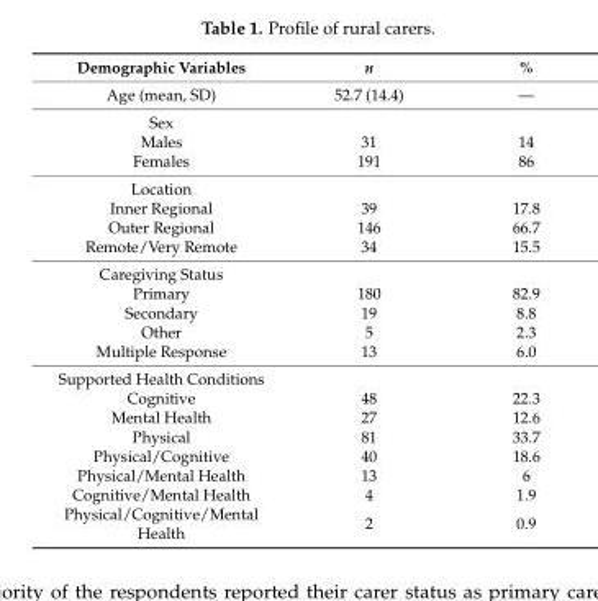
<table><thead><tr><td>Demographic Variables</td><td>n</td><td>%</td></tr></thead><tbody><tr><td>Age (mean, SD)</td><td>52.7 (14.4)</td><td>—</td></tr><tr><td colspan="3">Sex</td></tr><tr><td>Males</td><td>31</td><td>14</td></tr><tr><td>Females</td><td>191</td><td>86</td></tr><tr><td colspan="3">Location</td></tr><tr><td>Inner Regional</td><td>39</td><td>17.8</td></tr><tr><td>Outer Regional</td><td>146</td><td>66.7</td></tr><tr><td>Remote/Very Remote</td><td>34</td><td>15.5</td></tr><tr><td colspan="3">Caregiving Status</td></tr><tr><td>Primary</td><td>180</td><td>82.9</td></tr><tr><td>Secondary</td><td>19</td><td>8.8</td></tr><tr><td>Other</td><td>5</td><td>2.3</td></tr><tr><td>Multiple Response</td><td>13</td><td>6.0</td></tr><tr><td colspan="3">Supported Health Conditions</td></tr><tr><td>Cognitive</td><td>48</td><td>22.3</td></tr><tr><td>Mental Health</td><td>27</td><td>12.6</td></tr><tr><td>Physical</td><td>81</td><td>33.7</td></tr><tr><td>Physical/Cognitive</td><td>40</td><td>18.6</td></tr><tr><td>Physical/Mental Health</td><td>13</td><td>6</td></tr><tr><td>Cognitive/Mental Health</td><td>4</td><td>1.9</td></tr><tr><td>Physical/Cognitive/Mental Health</td><td>2</td><td>0.9</td></tr></tbody></table>